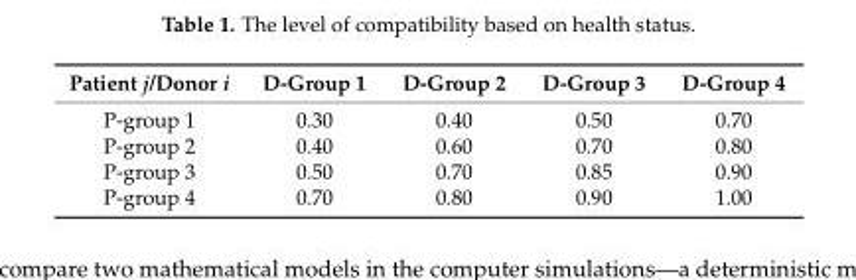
<table><thead><tr><td>Patient j/Donor i</td><td>D-Group 1</td><td>D-Group 2</td><td>D-Group 3</td><td>D-Group 4</td></tr></thead><tbody><tr><td>P-group 1</td><td>0.30</td><td>0.40</td><td>0.50</td><td>0.70</td></tr><tr><td>P-group 2</td><td>0.40</td><td>0.60</td><td>0.70</td><td>0.80</td></tr><tr><td>P-group 3</td><td>0.50</td><td>0.70</td><td>0.85</td><td>0.90</td></tr><tr><td>P-group 4</td><td>0.70</td><td>0.80</td><td>0.90</td><td>1.00</td></tr></tbody></table>